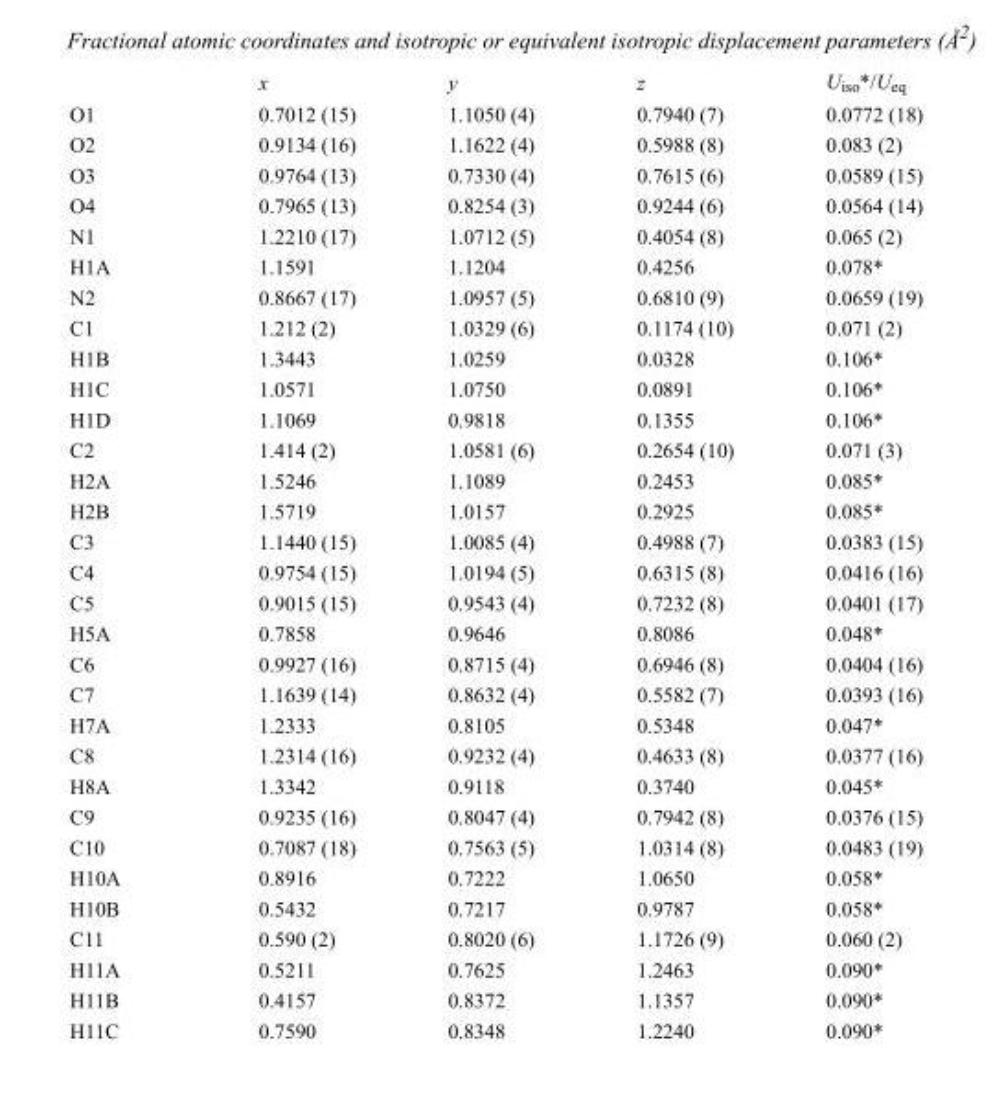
<table><thead><tr><td></td><td>x</td><td>y</td><td>z</td><td>U<sub>iso</sub>*/U<sub>eq</sub></td></tr></thead><tbody><tr><td>O1</td><td>0.7012 (15)</td><td>1.1050 (4)</td><td>0.7940 (7)</td><td>0.0772 (18)</td></tr><tr><td>O2</td><td>0.9134 (16)</td><td>1.1622 (4)</td><td>0.5988 (8)</td><td>0.083 (2)</td></tr><tr><td>O3</td><td>0.9764 (13)</td><td>0.7330 (4)</td><td>0.7615 (6)</td><td>0.0589 (15)</td></tr><tr><td>O4</td><td>0.7965 (13)</td><td>0.8254 (3)</td><td>0.9244 (6)</td><td>0.0564 (14)</td></tr><tr><td>N1</td><td>1.2210 (17)</td><td>1.0712 (5)</td><td>0.4054 (8)</td><td>0.065 (2)</td></tr><tr><td>H1A</td><td>1.1591</td><td>1.1204</td><td>0.4256</td><td>0.078*</td></tr><tr><td>N2</td><td>0.8667 (17)</td><td>1.0957 (5)</td><td>0.6810 (9)</td><td>0.0659 (19)</td></tr><tr><td>C1</td><td>1.212 (2)</td><td>1.0329 (6)</td><td>0.1174 (10)</td><td>0.071 (2)</td></tr><tr><td>H1B</td><td>1.3443</td><td>1.0259</td><td>0.0328</td><td>0.106*</td></tr><tr><td>H1C</td><td>1.0571</td><td>1.0750</td><td>0.0891</td><td>0.106*</td></tr><tr><td>H1D</td><td>1.1069</td><td>0.9818</td><td>0.1355</td><td>0.106*</td></tr><tr><td>C2</td><td>1.414 (2)</td><td>1.0581 (6)</td><td>0.2654 (10)</td><td>0.071 (3)</td></tr><tr><td>H2A</td><td>1.5246</td><td>1.1089</td><td>0.2453</td><td>0.085*</td></tr><tr><td>H2B</td><td>1.5719</td><td>1.0157</td><td>0.2925</td><td>0.085*</td></tr><tr><td>C3</td><td>1.1440 (15)</td><td>1.0085 (4)</td><td>0.4988 (7)</td><td>0.0383 (15)</td></tr><tr><td>C4</td><td>0.9754 (15)</td><td>1.0194 (5)</td><td>0.6315 (8)</td><td>0.0416 (16)</td></tr><tr><td>C5</td><td>0.9015 (15)</td><td>0.9543 (4)</td><td>0.7232 (8)</td><td>0.0401 (17)</td></tr><tr><td>H5A</td><td>0.7858</td><td>0.9646</td><td>0.8086</td><td>0.048*</td></tr><tr><td>C6</td><td>0.9927 (16)</td><td>0.8715 (4)</td><td>0.6946 (8)</td><td>0.0404 (16)</td></tr><tr><td>C7</td><td>1.1639 (14)</td><td>0.8632 (4)</td><td>0.5582 (7)</td><td>0.0393 (16)</td></tr><tr><td>H7A</td><td>1.2333</td><td>0.8105</td><td>0.5348</td><td>0.047*</td></tr><tr><td>C8</td><td>1.2314 (16)</td><td>0.9232 (4)</td><td>0.4633 (8)</td><td>0.0377 (16)</td></tr><tr><td>H8A</td><td>1.3342</td><td>0.9118</td><td>0.3740</td><td>0.045*</td></tr><tr><td>C9</td><td>0.9235 (16)</td><td>0.8047 (4)</td><td>0.7942 (8)</td><td>0.0376 (15)</td></tr><tr><td>C10</td><td>0.7087 (18)</td><td>0.7563 (5)</td><td>1.0314 (8)</td><td>0.0483 (19)</td></tr><tr><td>H10A</td><td>0.8916</td><td>0.7222</td><td>1.0650</td><td>0.058*</td></tr><tr><td>H10B</td><td>0.5432</td><td>0.7217</td><td>0.9787</td><td>0.058*</td></tr><tr><td>C11</td><td>0.590 (2)</td><td>0.8020 (6)</td><td>1.1726 (9)</td><td>0.060 (2)</td></tr><tr><td>H11A</td><td>0.5211</td><td>0.7625</td><td>1.2463</td><td>0.090*</td></tr><tr><td>H11B</td><td>0.4157</td><td>0.8372</td><td>1.1357</td><td>0.090*</td></tr><tr><td>H11C</td><td>0.7590</td><td>0.8348</td><td>1.2240</td><td>0.090*</td></tr></tbody></table>